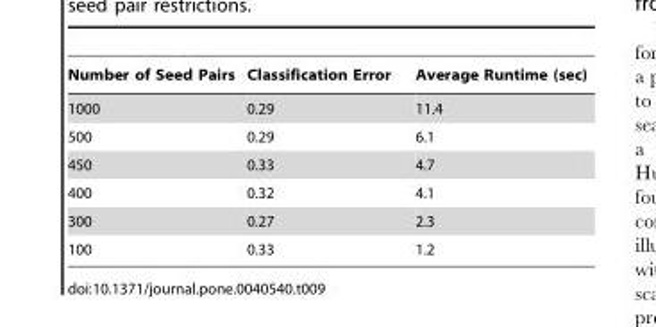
<table><thead><tr><td>Number of Seed Pairs</td><td>Classification Error</td><td>Average Runtime (sec)</td></tr></thead><tbody><tr><td>1000</td><td>0.29</td><td>11.4</td></tr><tr><td>500</td><td>0.29</td><td>6.1</td></tr><tr><td>450</td><td>0.33</td><td>4.7</td></tr><tr><td>400</td><td>0.32</td><td>4.1</td></tr><tr><td>300</td><td>0.27</td><td>2.3</td></tr><tr><td>100</td><td>0.33</td><td>1.2</td></tr></tbody></table>